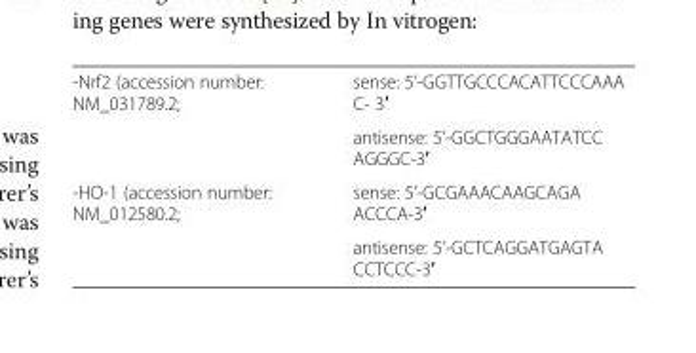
<table><tbody><tr><td rowspan="2">-Nrf2 (accession number: NM_031789.2;</td><td>sense: 5’-GGTTGCCCACATTCCCAAA C- 3′</td></tr><tr><td>antisense: 5’-GGCTGGGAATATCC AGGGC-3′</td></tr><tr><td rowspan="2">-HO-1 (accession number: NM_012580.2;</td><td>sense: 5’-GCGAAACAAGCAGA ACCCA-3′</td></tr><tr><td>antisense: 5’-GCTCAGGATGAGTA CCTCCC-3′</td></tr></tbody></table>